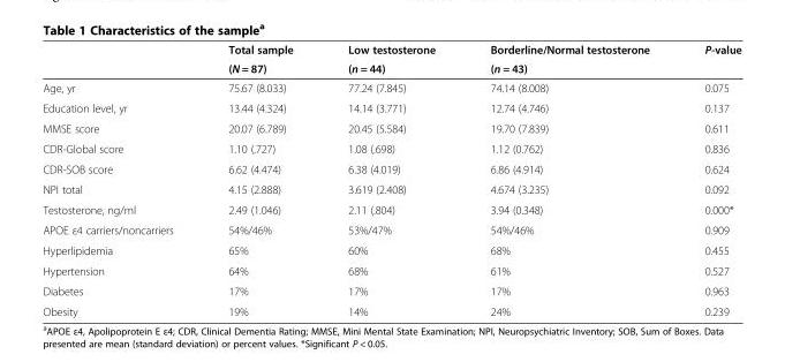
<table><thead><tr><td rowspan="2"></td><td rowspan="2">Total sample (N = 87)</td><td rowspan="2">Low testosterone (n = 44)</td><td rowspan="2">Borderline/Normal testosterone (n = 43)</td><td rowspan="2">P-value</td></tr><tr></tr></thead><tbody><tr><td>Age, yr</td><td>75.67 (8.033)</td><td>77.24 (7.845)</td><td>74.14 (8.008)</td><td>0.075</td></tr><tr><td>Education level, yr</td><td>13.44 (4.324)</td><td>14.14 (3.771)</td><td>12.74 (4.746)</td><td>0.137</td></tr><tr><td>MMSE score</td><td>20.07 (6.789)</td><td>20.45 (5.584)</td><td>19.70 (7.839)</td><td>0.611</td></tr><tr><td>CDR-Global score</td><td>1.10 (.727)</td><td>1.08 (.698)</td><td>1.12 (0.762)</td><td>0.836</td></tr><tr><td>CDR-SOB score</td><td>6.62 (4.474)</td><td>6.38 (4.019)</td><td>6.86 (4.914)</td><td>0.624</td></tr><tr><td>NPI total</td><td>4.15 (2.888)</td><td>3.619 (2.408)</td><td>4.674 (3.235)</td><td>0.092</td></tr><tr><td>Testosterone, ng/ml</td><td>2.49 (1.046)</td><td>2.11 (.804)</td><td>3.94 (0.348)</td><td>0.000*</td></tr><tr><td>APOE ε4 carriers/noncarriers</td><td>54%/46%</td><td>53%/47%</td><td>54%/46%</td><td>0.909</td></tr><tr><td>Hyperlipidemia</td><td>65%</td><td>60%</td><td>68%</td><td>0.455</td></tr><tr><td>Hypertension</td><td>64%</td><td>68%</td><td>61%</td><td>0.527</td></tr><tr><td>Diabetes</td><td>17%</td><td>17%</td><td>17%</td><td>0.963</td></tr><tr><td>Obesity</td><td>19%</td><td>14%</td><td>24%</td><td>0.239</td></tr></tbody></table>